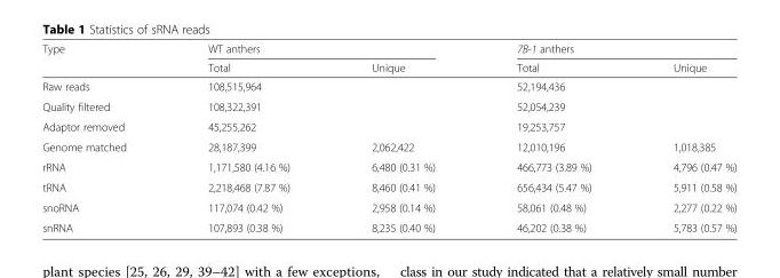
<table><thead><tr><td rowspan="2">Type</td><td colspan="2">WT anthers</td><td colspan="2">7B-1 anthers</td></tr><tr><td>Total</td><td>Unique</td><td>Total</td><td>Unique</td></tr></thead><tbody><tr><td>Raw reads</td><td>108,515,964</td><td></td><td>52,194,436</td><td></td></tr><tr><td>Quality filtered</td><td>108,322,391</td><td></td><td>52,054,239</td><td></td></tr><tr><td>Adaptor removed</td><td>45,255,262</td><td></td><td>19,253,757</td><td></td></tr><tr><td>Genome matched</td><td>28,187,399</td><td>2,062,422</td><td>12,010,196</td><td>1,018,385</td></tr><tr><td>rRNA</td><td>1,171,580 (4.16 %)</td><td>6,480 (0.31 %)</td><td>466,773 (3.89 %)</td><td>4,796 (0.47 %)</td></tr><tr><td>tRNA</td><td>2,218,468 (7.87 %)</td><td>8,460 (0.41 %)</td><td>656,434 (5.47 %)</td><td>5,911 (0.58 %)</td></tr><tr><td>snoRNA</td><td>117,074 (0.42 %)</td><td>2,958 (0.14 %)</td><td>58,061 (0.48 %)</td><td>2,277 (0.22 %)</td></tr><tr><td>snRNA</td><td>107,893 (0.38 %)</td><td>8,235 (0.40 %)</td><td>46,202 (0.38 %)</td><td>5,783 (0.57 %)</td></tr></tbody></table>